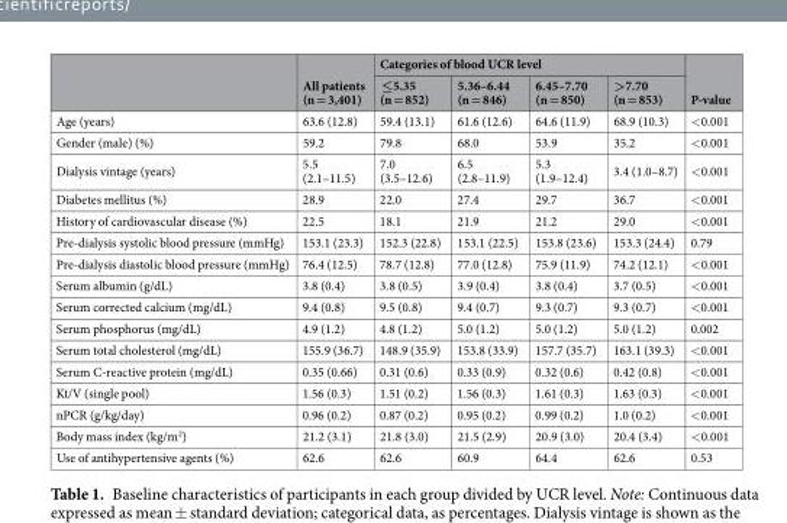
<table><thead><tr><td rowspan="2"></td><td rowspan="2">All patients (n = 3,401)</td><td colspan="4">Categories of blood UCR level</td><td rowspan="2">P-value</td></tr><tr><td>≤5.35 (n = 852)</td><td>5.36–6.44 (n = 846)</td><td>6.45–7.70 (n = 850)</td><td>&gt;7.70 (n = 853)</td></tr></thead><tbody><tr><td>Age (years)</td><td>63.6 (12.8)</td><td>59.4 (13.1)</td><td>61.6 (12.6)</td><td>64.6 (11.9)</td><td>68.9 (10.3)</td><td>&lt;0.001</td></tr><tr><td>Gender (male) (%)</td><td>59.2</td><td>79.8</td><td>68.0</td><td>53.9</td><td>35.2</td><td>&lt;0.001</td></tr><tr><td>Dialysis vintage (years)</td><td>5.5 (2.1–11.5)</td><td>7.0 (3.5–12.6)</td><td>6.5 (2.8–11.9)</td><td>5.3 (1.9–12.4)</td><td>3.4 (1.0–8.7)</td><td>&lt;0.001</td></tr><tr><td>Diabetes mellitus (%)</td><td>28.9</td><td>22.0</td><td>27.4</td><td>29.7</td><td>36.7</td><td>&lt;0.001</td></tr><tr><td>History of cardiovascular disease (%)</td><td>22.5</td><td>18.1</td><td>21.9</td><td>21.2</td><td>29.0</td><td>&lt;0.001</td></tr><tr><td>Pre-dialysis systolic blood pressure (mmHg)</td><td>153.1 (23.3)</td><td>152.3 (22.8)</td><td>153.1 (22.5)</td><td>153.8 (23.6)</td><td>153.3 (24.4)</td><td>0.79</td></tr><tr><td>Pre-dialysis diastolic blood pressure (mmHg)</td><td>76.4 (12.5)</td><td>78.7 (12.8)</td><td>77.0 (12.8)</td><td>75.9 (11.9)</td><td>74.2 (12.1)</td><td>&lt;0.001</td></tr><tr><td>Serum albumin (g/dL)</td><td>3.8 (0.4)</td><td>3.8 (0.5)</td><td>3.9 (0.4)</td><td>3.8 (0.4)</td><td>3.7 (0.5)</td><td>&lt;0.001</td></tr><tr><td>Serum corrected calcium (mg/dL)</td><td>9.4 (0.8)</td><td>9.5 (0.8)</td><td>9.4 (0.7)</td><td>9.3 (0.7)</td><td>9.3 (0.7)</td><td>&lt;0.001</td></tr><tr><td>Serum phosphorus (mg/dL)</td><td>4.9 (1.2)</td><td>4.8 (1.2)</td><td>5.0 (1.2)</td><td>5.0 (1.2)</td><td>5.0 (1.2)</td><td>0.002</td></tr><tr><td>Serum total cholesterol (mg/dL)</td><td>155.9 (36.7)</td><td>148.9 (35.9)</td><td>153.8 (33.9)</td><td>157.7 (35.7)</td><td>163.1 (39.3)</td><td>&lt;0.001</td></tr><tr><td>Serum C-reactive protein (mg/dL)</td><td>0.35 (0.66)</td><td>0.31 (0.6)</td><td>0.33 (0.9)</td><td>0.32 (0.6)</td><td>0.42 (0.8)</td><td>&lt;0.001</td></tr><tr><td>Kt/V (single pool)</td><td>1.56 (0.3)</td><td>1.51 (0.2)</td><td>1.56 (0.3)</td><td>1.61 (0.3)</td><td>1.63 (0.3)</td><td>&lt;0.001</td></tr><tr><td>nPCR (g/kg/day)</td><td>0.96 (0.2)</td><td>0.87 (0.2)</td><td>0.95 (0.2)</td><td>0.99 (0.2)</td><td>1.0 (0.2)</td><td>&lt;0.001</td></tr><tr><td>Body mass index (kg/m<sup>2</sup>)</td><td>21.2 (3.1)</td><td>21.8 (3.0)</td><td>21.5 (2.9)</td><td>20.9 (3.0)</td><td>20.4 (3.4)</td><td>&lt;0.001</td></tr><tr><td>Use of antihypertensive agents (%)</td><td>62.6</td><td>62.6</td><td>60.9</td><td>64.4</td><td>62.6</td><td>0.53</td></tr></tbody></table>